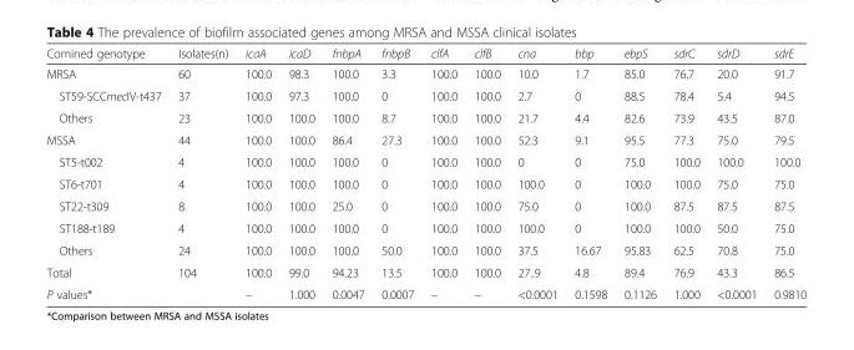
<table><thead><tr><td>Comined genotype</td><td>Isolates(n)</td><td>icaA</td><td>icaD</td><td>fnbpA</td><td>fnbpB</td><td>clfA</td><td>clfB</td><td>cna</td><td>bbp</td><td>ebpS</td><td>sdrC</td><td>sdrD</td><td>sdrE</td></tr></thead><tbody><tr><td>MRSA</td><td>60</td><td>100.0</td><td>98.3</td><td>100.0</td><td>3.3</td><td>100.0</td><td>100.0</td><td>10.0</td><td>1.7</td><td>85.0</td><td>76.7</td><td>20.0</td><td>91.7</td></tr><tr><td>ST59-SCCmecIV-t437</td><td>37</td><td>100.0</td><td>97.3</td><td>100.0</td><td>0</td><td>100.0</td><td>100.0</td><td>2.7</td><td>0</td><td>88.5</td><td>78.4</td><td>5.4</td><td>94.5</td></tr><tr><td>Others</td><td>23</td><td>100.0</td><td>100.0</td><td>100.0</td><td>8.7</td><td>100.0</td><td>100.0</td><td>21.7</td><td>4.4</td><td>82.6</td><td>73.9</td><td>43.5</td><td>87.0</td></tr><tr><td>MSSA</td><td>44</td><td>100.0</td><td>100.0</td><td>86.4</td><td>27.3</td><td>100.0</td><td>100.0</td><td>52.3</td><td>9.1</td><td>95.5</td><td>77.3</td><td>75.0</td><td>79.5</td></tr><tr><td>ST5-t002</td><td>4</td><td>100.0</td><td>100.0</td><td>100.0</td><td>0</td><td>100.0</td><td>100.0</td><td>0</td><td>0</td><td>75.0</td><td>100.0</td><td>100.0</td><td>100.0</td></tr><tr><td>ST6-t701</td><td>4</td><td>100.0</td><td>100.0</td><td>100.0</td><td>0</td><td>100.0</td><td>100.0</td><td>100.0</td><td>0</td><td>100.0</td><td>100.0</td><td>75.0</td><td>75.0</td></tr><tr><td>ST22-t309</td><td>8</td><td>100.0</td><td>100.0</td><td>25.0</td><td>0</td><td>100.0</td><td>100.0</td><td>75.0</td><td>0</td><td>100.0</td><td>87.5</td><td>87.5</td><td>87.5</td></tr><tr><td>ST188-t189</td><td>4</td><td>100.0</td><td>100.0</td><td>100.0</td><td>0</td><td>100.0</td><td>100.0</td><td>100.0</td><td>0</td><td>100.0</td><td>100.0</td><td>50.0</td><td>75.0</td></tr><tr><td>Others</td><td>24</td><td>100.0</td><td>100.0</td><td>100.0</td><td>50.0</td><td>100.0</td><td>100.0</td><td>37.5</td><td>16.67</td><td>95.83</td><td>62.5</td><td>70.8</td><td>75.0</td></tr><tr><td>Total</td><td>104</td><td>100.0</td><td>99.0</td><td>94.23</td><td>13.5</td><td>100.0</td><td>100.0</td><td>27..9</td><td>4.8</td><td>89.4</td><td>76.9</td><td>43.3</td><td>86.5</td></tr><tr><td>P values*</td><td></td><td>–</td><td>1.000</td><td>0.0047</td><td>0.0007</td><td>–</td><td>–</td><td>&lt;0.0001</td><td>0.1598</td><td>0.1126</td><td>1.000</td><td>&lt;0.0001</td><td>0.9810</td></tr></tbody></table>